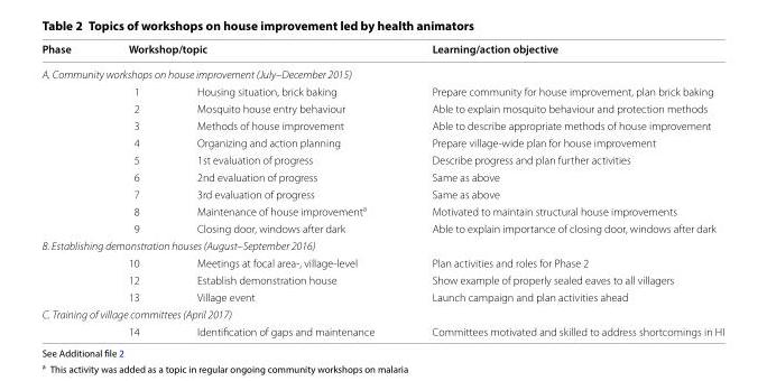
<table><thead><tr><td>Phase</td><td colspan="2">Workshop/topic</td><td>Learning/action objective</td></tr><tr><td colspan="4">A. Community workshops on house improvement (July–December 2015)</td></tr><tr><td></td><td>1</td><td>Housing situation, brick baking</td><td>Prepare community for house improvement, plan brick baking</td></tr></thead><tbody><tr><td></td><td>2</td><td>Mosquito house entry behaviour</td><td>Able to explain mosquito behaviour and protection methods</td></tr><tr><td></td><td>3</td><td>Methods of house improvement</td><td>Able to describe appropriate methods of house improvement</td></tr><tr><td></td><td>4</td><td>Organizing and action planning</td><td>Prepare village-wide plan for house improvement</td></tr><tr><td></td><td>5</td><td>1st evaluation of progress</td><td>Describe progress and plan further activities</td></tr><tr><td></td><td>6</td><td>2nd evaluation of progress</td><td>Same as above</td></tr><tr><td></td><td>7</td><td>3rd evaluation of progress</td><td>Same as above</td></tr><tr><td rowspan="2"></td><td>8</td><td>Maintenance of house improvement<sup>a</sup></td><td>Motivated to maintain structural house improvements</td></tr><tr><td>9</td><td>Closing door, windows after dark</td><td>Able to explain importance of closing door, windows after dark</td></tr><tr><td colspan="4">B. Establishing demonstration houses (August–September 2016)</td></tr><tr><td></td><td>10</td><td>Meetings at focal area-, village-level</td><td>Plan activities and roles for Phase 2</td></tr><tr><td></td><td>12</td><td>Establish demonstration house</td><td>Show example of properly sealed eaves to all villagers</td></tr><tr><td></td><td>13</td><td>Village event</td><td>Launch campaign and plan activities ahead</td></tr><tr><td colspan="4">C. Training of village committees (April 2017)</td></tr><tr><td></td><td>14</td><td>Identification of gaps and maintenance</td><td>Committees motivated and skilled to address shortcomings in HI</td></tr></tbody></table>